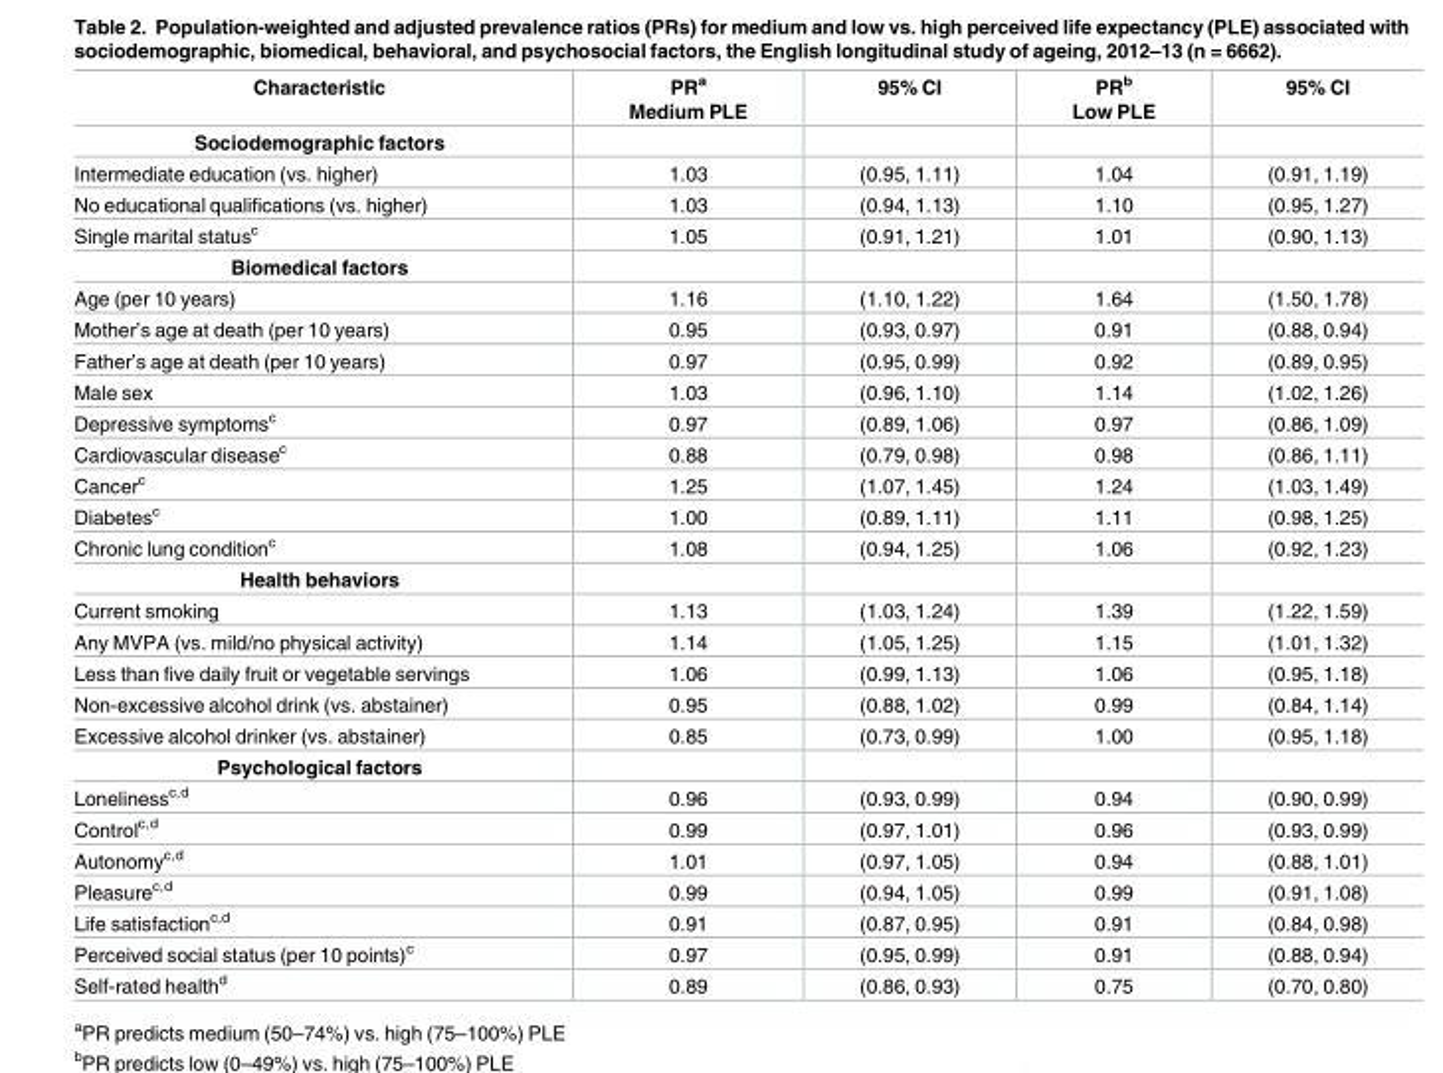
<table><thead><tr><td>Characteristic</td><td>PR<sup>a</sup> Medium PLE</td><td>95% CI</td><td>PR<sup>b</sup> Low PLE</td><td>95% CI</td></tr></thead><tbody><tr><td colspan="5">Sociodemographic factors</td></tr><tr><td>Intermediate education (vs. higher)</td><td>1.03</td><td>(0.95, 1.11)</td><td>1.04</td><td>(0.91, 1.19)</td></tr><tr><td>No educational qualifications (vs. higher)</td><td>1.03</td><td>(0.94, 1.13)</td><td>1.10</td><td>(0.95, 1.27)</td></tr><tr><td>Single marital status<sup>c</sup></td><td>1.05</td><td>(0.91, 1.21)</td><td>1.01</td><td>(0.90, 1.13)</td></tr><tr><td colspan="5">Biomedical factors</td></tr><tr><td>Age (per 10 years)</td><td>1.16</td><td>(1.10, 1.22)</td><td>1.64</td><td>(1.50, 1.78)</td></tr><tr><td>Mother’s age at death (per 10 years)</td><td>0.95</td><td>(0.93, 0.97)</td><td>0.91</td><td>(0.88, 0.94)</td></tr><tr><td>Father’s age at death (per 10 years)</td><td>0.97</td><td>(0.95, 0.99)</td><td>0.92</td><td>(0.89, 0.95)</td></tr><tr><td>Male sex</td><td>1.03</td><td>(0.96, 1.10)</td><td>1.14</td><td>(1.02, 1.26)</td></tr><tr><td>Depressive symptoms<sup>c</sup></td><td>0.97</td><td>(0.89, 1.06)</td><td>0.97</td><td>(0.86, 1.09)</td></tr><tr><td>Cardiovascular disease<sup>c</sup></td><td>0.88</td><td>(0.79, 0.98)</td><td>0.98</td><td>(0.86, 1.11)</td></tr><tr><td>Cancer<sup>c</sup></td><td>1.25</td><td>(1.07, 1.45)</td><td>1.24</td><td>(1.03, 1.49)</td></tr><tr><td>Diabetes<sup>c</sup></td><td>1.00</td><td>(0.89, 1.11)</td><td>1.11</td><td>(0.98, 1.25)</td></tr><tr><td>Chronic lung condition<sup>c</sup></td><td>1.08</td><td>(0.94, 1.25)</td><td>1.06</td><td>(0.92, 1.23)</td></tr><tr><td colspan="5">Health behaviors</td></tr><tr><td>Current smoking</td><td>1.13</td><td>(1.03, 1.24)</td><td>1.39</td><td>(1.22, 1.59)</td></tr><tr><td>Any MVPA (vs. mild/no physical activity)</td><td>1.14</td><td>(1.05, 1.25)</td><td>1.15</td><td>(1.01, 1.32)</td></tr><tr><td>Less than five daily fruit or vegetable servings</td><td>1.06</td><td>(0.99, 1.13)</td><td>1.06</td><td>(0.95, 1.18)</td></tr><tr><td>Non-excessive alcohol drink (vs. abstainer)</td><td>0.95</td><td>(0.88, 1.02)</td><td>0.99</td><td>(0.84, 1.14)</td></tr><tr><td>Excessive alcohol drinker (vs. abstainer)</td><td>0.85</td><td>(0.73, 0.99)</td><td>1.00</td><td>(0.95, 1.18)</td></tr><tr><td colspan="5">Psychological factors</td></tr><tr><td>Loneliness<sup>c,d</sup></td><td>0.96</td><td>(0.93, 0.99)</td><td>0.94</td><td>(0.90, 0.99)</td></tr><tr><td>Control<sup>c,d</sup></td><td>0.99</td><td>(0.97, 1.01)</td><td>0.96</td><td>(0.93, 0.99)</td></tr><tr><td>Autonomy<sup>c,d</sup></td><td>1.01</td><td>(0.97, 1.05)</td><td>0.94</td><td>(0.88, 1.01)</td></tr><tr><td>Pleasure<sup>c,d</sup></td><td>0.99</td><td>(0.94, 1.05)</td><td>0.99</td><td>(0.91, 1.08)</td></tr><tr><td>Life satisfaction<sup>c,d</sup></td><td>0.91</td><td>(0.87, 0.95)</td><td>0.91</td><td>(0.84, 0.98)</td></tr><tr><td>Perceived social status (per 10 points)<sup>c</sup></td><td>0.97</td><td>(0.95, 0.99)</td><td>0.91</td><td>(0.88, 0.94)</td></tr><tr><td>Self-rated health<sup>d</sup></td><td>0.89</td><td>(0.86, 0.93)</td><td>0.75</td><td>(0.70, 0.80)</td></tr></tbody></table>